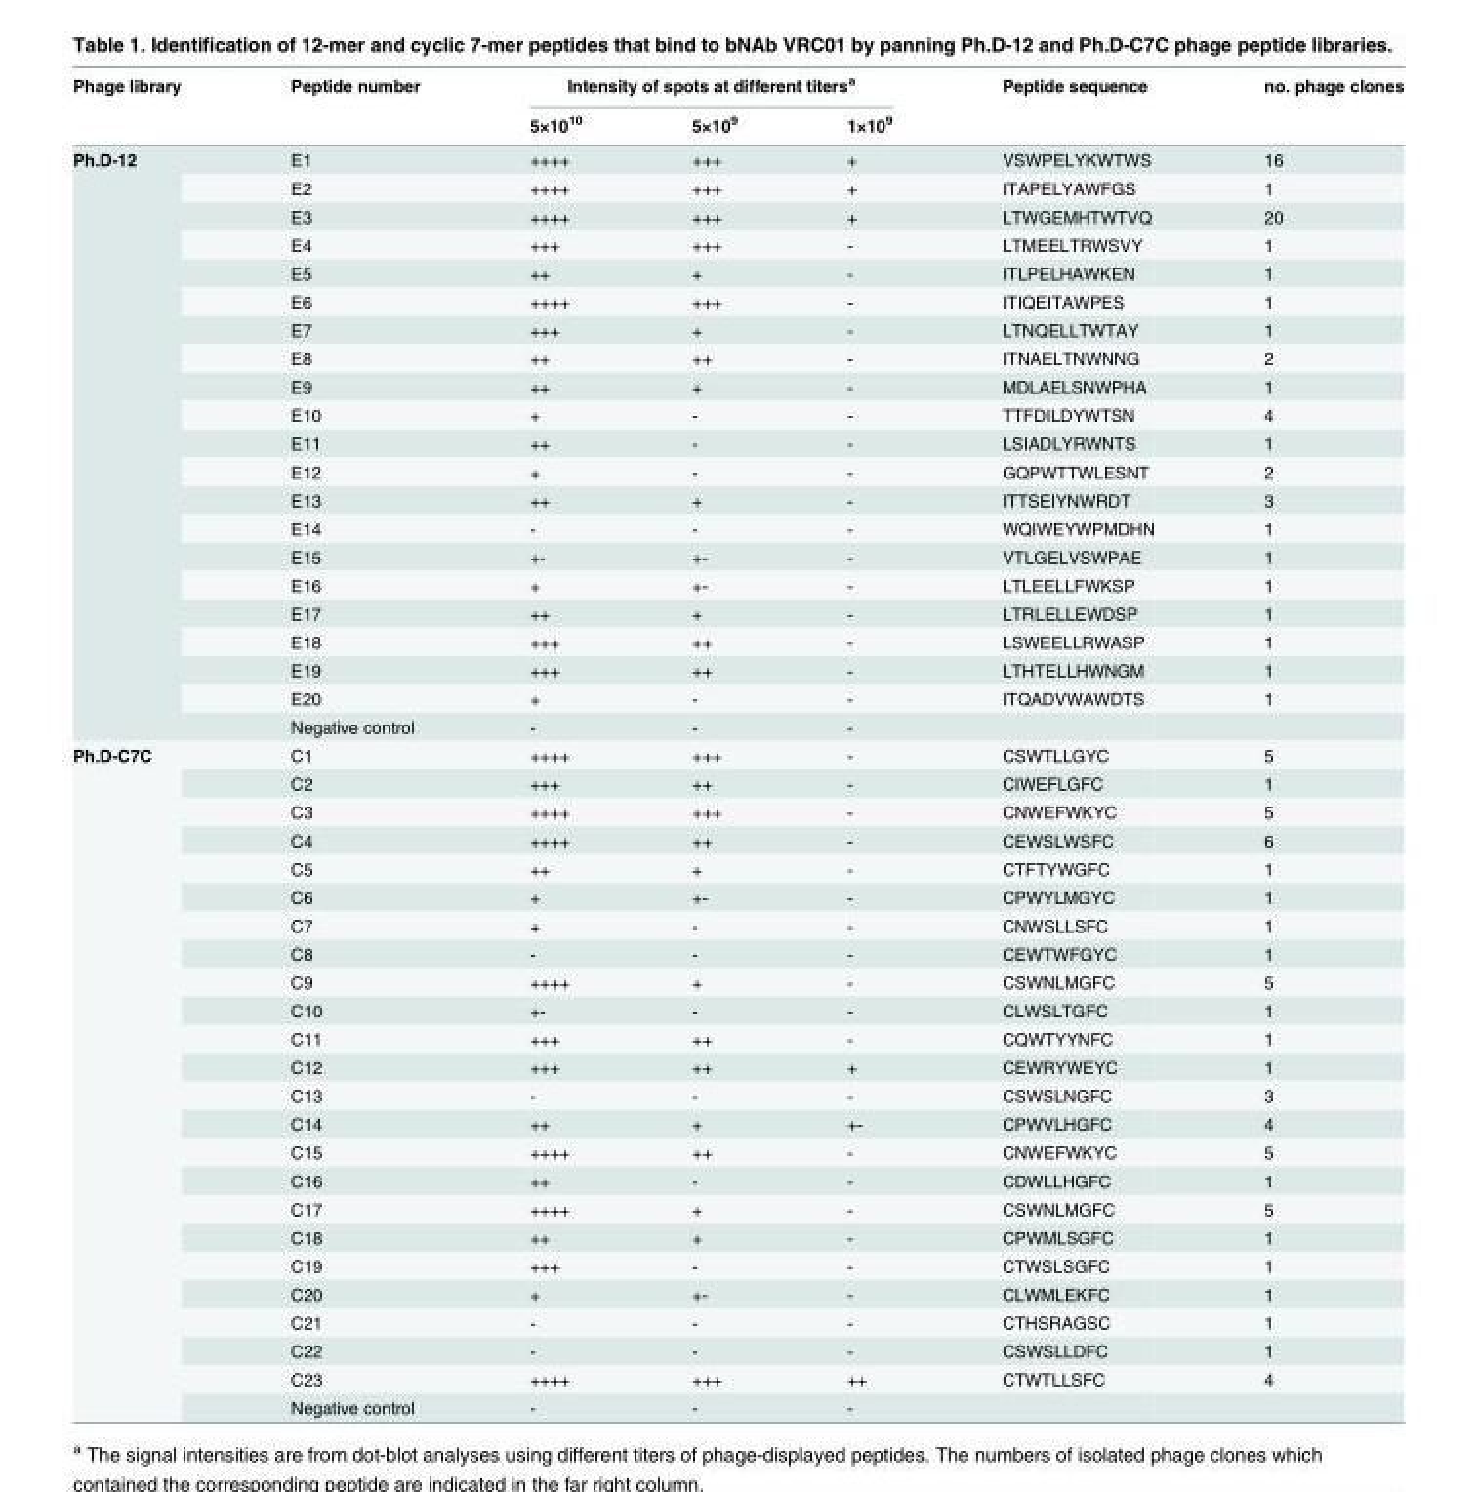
<table><thead><tr><td rowspan="2">Phage library</td><td rowspan="2">Peptide number</td><td colspan="3">Intensity of spots at different titers<sup>a</sup></td><td rowspan="2">Peptide sequence</td><td rowspan="2">no. phage clones</td></tr><tr><td>5×10<sup>10</sup></td><td>5×10<sup>9</sup></td><td>1×10<sup>9</sup></td></tr></thead><tbody><tr><td rowspan="21">Ph.D-12</td><td>E1</td><td>++++</td><td>+++</td><td>+</td><td>VSWPELYKWTWS</td><td>16</td></tr><tr><td>E2</td><td>++++</td><td>+++</td><td>+</td><td>ITAPELYAWFGS</td><td>1</td></tr><tr><td>E3</td><td>++++</td><td>+++</td><td>+</td><td>LTWGEMHTWTVQ</td><td>20</td></tr><tr><td>E4</td><td>+++</td><td>+++</td><td>-</td><td>LTMEELTRWSVY</td><td>1</td></tr><tr><td>E5</td><td>++</td><td>+</td><td>-</td><td>ITLPELHAWKEN</td><td>1</td></tr><tr><td>E6</td><td>++++</td><td>+++</td><td>-</td><td>ITIQEITAWPES</td><td>1</td></tr><tr><td>E7</td><td>+++</td><td>+</td><td>-</td><td>LTNQELLTWTAY</td><td>1</td></tr><tr><td>E8</td><td>++</td><td>++</td><td>-</td><td>ITNAELTNWNNG</td><td>2</td></tr><tr><td>E9</td><td>++</td><td>+</td><td>-</td><td>MDLAELSNWPHA</td><td>1</td></tr><tr><td>E10</td><td>+</td><td>-</td><td>-</td><td>TTFDILDYWTSN</td><td>4</td></tr><tr><td>E11</td><td>++</td><td>-</td><td>-</td><td>LSIADLYRWNTS</td><td>1</td></tr><tr><td>E12</td><td>+</td><td>-</td><td>-</td><td>GQPWTTWLESNT</td><td>2</td></tr><tr><td>E13</td><td>++</td><td>+</td><td>-</td><td>ITTSEIYNWRDT</td><td>3</td></tr><tr><td>E14</td><td>-</td><td>-</td><td>-</td><td>WQIWEYWPMDHN</td><td>1</td></tr><tr><td>E15</td><td>+-</td><td>+-</td><td>-</td><td>VTLGELVSWPAE</td><td>1</td></tr><tr><td>E16</td><td>+</td><td>+-</td><td>-</td><td>LTLEELLFWKSP</td><td>1</td></tr><tr><td>E17</td><td>++</td><td>+</td><td>-</td><td>LTRLELLEWDSP</td><td>1</td></tr><tr><td>E18</td><td>+++</td><td>++</td><td>-</td><td>LSWEELLRWASP</td><td>1</td></tr><tr><td>E19</td><td>+++</td><td>++</td><td>-</td><td>LTHTELLHWNGM</td><td>1</td></tr><tr><td>E20</td><td>+</td><td>-</td><td>-</td><td>ITQADVWAWDTS</td><td>1</td></tr><tr><td>Negative control</td><td>-</td><td>-</td><td>-</td><td></td><td></td></tr><tr><td rowspan="24">Ph.D-C7C</td><td>C1</td><td>++++</td><td>+++</td><td>-</td><td>CSWTLLGYC</td><td>5</td></tr><tr><td>C2</td><td>+++</td><td>++</td><td>-</td><td>CIWEFLGFC</td><td>1</td></tr><tr><td>C3</td><td>++++</td><td>+++</td><td>-</td><td>CNWEFWKYC</td><td>5</td></tr><tr><td>C4</td><td>++++</td><td>++</td><td>-</td><td>CEWSLWSFC</td><td>6</td></tr><tr><td>C5</td><td>++</td><td>+</td><td>-</td><td>CTFTYWGFC</td><td>1</td></tr><tr><td>C6</td><td>+</td><td>+-</td><td>-</td><td>CPWYLMGYC</td><td>1</td></tr><tr><td>C7</td><td>+</td><td>-</td><td>-</td><td>CNWSLLSFC</td><td>1</td></tr><tr><td>C8</td><td>-</td><td>-</td><td>-</td><td>CEWTWFGYC</td><td>1</td></tr><tr><td>C9</td><td>++++</td><td>+</td><td>-</td><td>CSWNLMGFC</td><td>5</td></tr><tr><td>C10</td><td>+-</td><td>-</td><td>-</td><td>CLWSLTGFC</td><td>1</td></tr><tr><td>C11</td><td>+++</td><td>++</td><td>-</td><td>CQWTYYNFC</td><td>1</td></tr><tr><td>C12</td><td>+++</td><td>++</td><td>+</td><td>CEWRYWEYC</td><td>1</td></tr><tr><td>C13</td><td>-</td><td>-</td><td>-</td><td>CSWSLNGFC</td><td>3</td></tr><tr><td>C14</td><td>++</td><td>+</td><td>+-</td><td>CPWVLHGFC</td><td>4</td></tr><tr><td>C15</td><td>++++</td><td>++</td><td>-</td><td>CNWEFWKYC</td><td>5</td></tr><tr><td>C16</td><td>++</td><td>-</td><td>-</td><td>CDWLLHGFC</td><td>1</td></tr><tr><td>C17</td><td>++++</td><td>+</td><td>-</td><td>CSWNLMGFC</td><td>5</td></tr><tr><td>C18</td><td>++</td><td>+</td><td>-</td><td>CPWMLSGFC</td><td>1</td></tr><tr><td>C19</td><td>+++</td><td>-</td><td>-</td><td>CTWSLSGFC</td><td>1</td></tr><tr><td>C20</td><td>+</td><td>+-</td><td>-</td><td>CLWMLEKFC</td><td>1</td></tr><tr><td>C21</td><td>-</td><td>-</td><td>-</td><td>CTHSRAGSC</td><td>1</td></tr><tr><td>C22</td><td>-</td><td>-</td><td>-</td><td>CSWSLLDFC</td><td>1</td></tr><tr><td>C23</td><td>++++</td><td>+++</td><td>++</td><td>CTWTLLSFC</td><td>4</td></tr><tr><td>Negative control</td><td>-</td><td>-</td><td>-</td><td></td><td></td></tr></tbody></table>